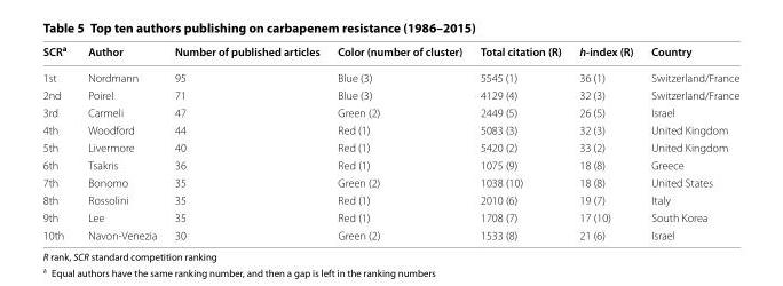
<table><thead><tr><td>SCR<sup>a</sup></td><td>Author</td><td>Number of published articles</td><td>Color (number of cluster)</td><td>Total citation (R)</td><td>h-index (R)</td><td>Country</td></tr></thead><tbody><tr><td>1st</td><td>Nordmann</td><td>95</td><td>Blue (3)</td><td>5545 (1)</td><td>36 (1)</td><td>Switzerland/France</td></tr><tr><td>2nd</td><td>Poirel</td><td>71</td><td>Blue (3)</td><td>4129 (4)</td><td>32 (3)</td><td>Switzerland/France</td></tr><tr><td>3rd</td><td>Carmeli</td><td>47</td><td>Green (2)</td><td>2449 (5)</td><td>26 (5)</td><td>Israel</td></tr><tr><td>4th</td><td>Woodford</td><td>44</td><td>Red (1)</td><td>5083 (3)</td><td>32 (3)</td><td>United Kingdom</td></tr><tr><td>5th</td><td>Livermore</td><td>40</td><td>Red (1)</td><td>5420 (2)</td><td>33 (2)</td><td>United Kingdom</td></tr><tr><td>6th</td><td>Tsakris</td><td>36</td><td>Red (1)</td><td>1075 (9)</td><td>18 (8)</td><td>Greece</td></tr><tr><td>7th</td><td>Bonomo</td><td>35</td><td>Green (2)</td><td>1038 (10)</td><td>18 (8)</td><td>United States</td></tr><tr><td>8th</td><td>Rossolini</td><td>35</td><td>Red (1)</td><td>2010 (6)</td><td>19 (7)</td><td>Italy</td></tr><tr><td>9th</td><td>Lee</td><td>35</td><td>Red (1)</td><td>1708 (7)</td><td>17 (10)</td><td>South Korea</td></tr><tr><td>10th</td><td>Navon‑Venezia</td><td>30</td><td>Green (2)</td><td>1533 (8)</td><td>21 (6)</td><td>Israel</td></tr></tbody></table>